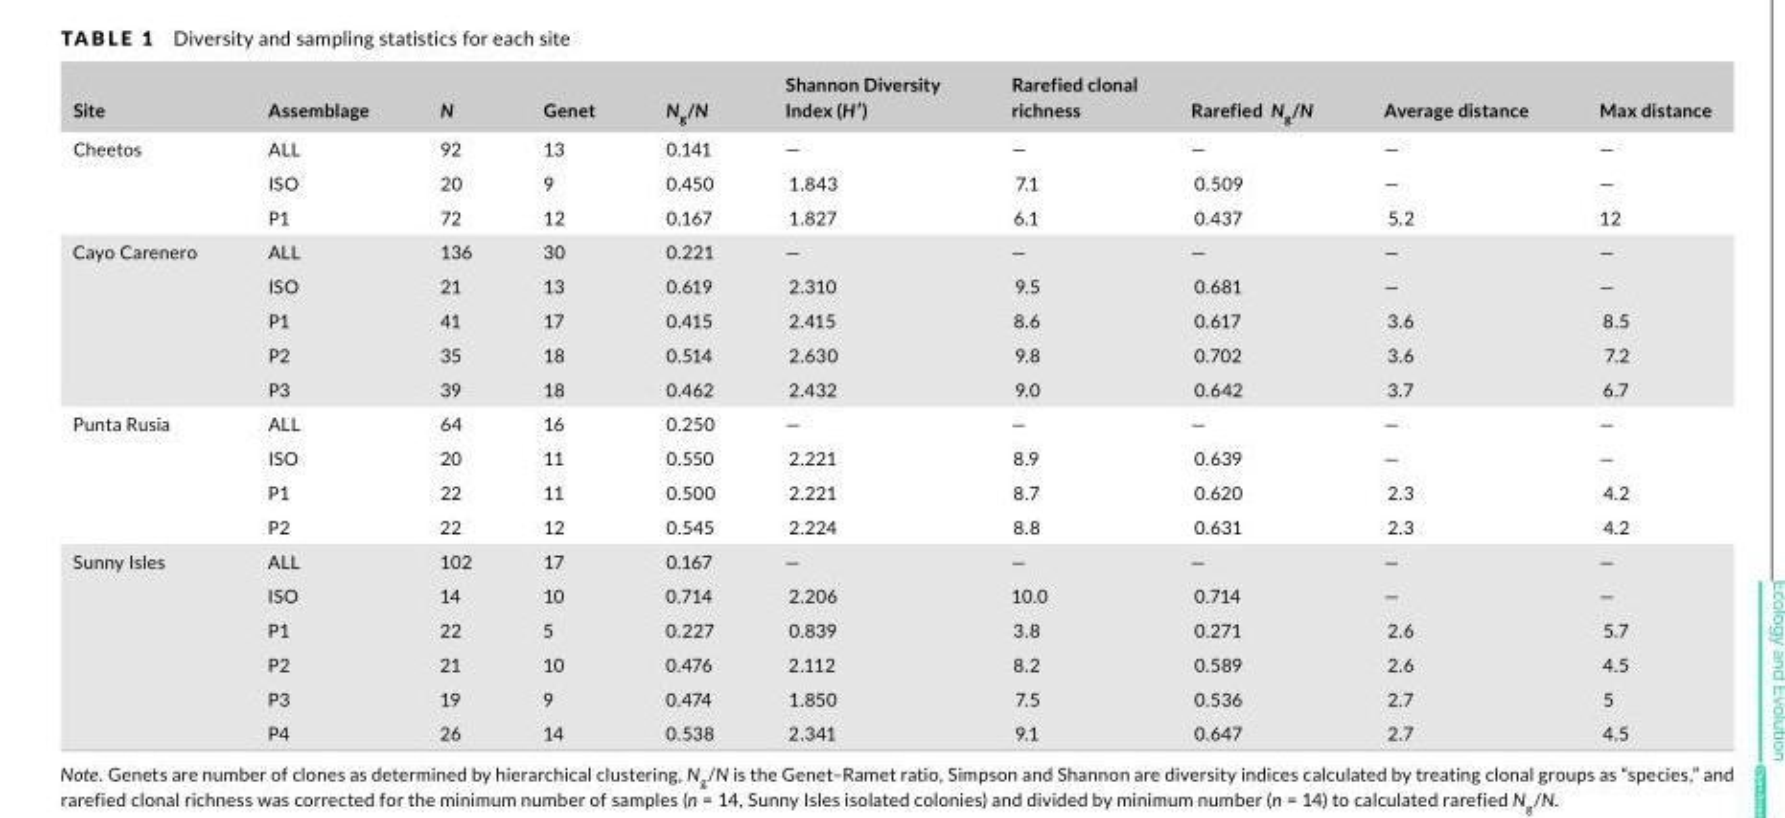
<table><thead><tr><td>Site</td><td>Assemblage</td><td>N</td><td>Genet</td><td>N<sub>g</sub>/N</td><td>Shannon Diversity Index (H′)</td><td>Rarefied clonal richness</td><td>Rarefied N<sub>g</sub>/N</td><td>Average distance</td><td>Max distance</td></tr></thead><tbody><tr><td rowspan="3">Cheetos</td><td>ALL</td><td>92</td><td>13</td><td>0.141</td><td>—</td><td>—</td><td>—</td><td>—</td><td>—</td></tr><tr><td>ISO</td><td>20</td><td>9</td><td>0.450</td><td>1.843</td><td>7.1</td><td>0.509</td><td>—</td><td>—</td></tr><tr><td>P1</td><td>72</td><td>12</td><td>0.167</td><td>1.827</td><td>6.1</td><td>0.437</td><td>5.2</td><td>12</td></tr><tr><td rowspan="5">Cayo Carenero</td><td>ALL</td><td>136</td><td>30</td><td>0.221</td><td>—</td><td>—</td><td>—</td><td>—</td><td>—</td></tr><tr><td>ISO</td><td>21</td><td>13</td><td>0.619</td><td>2.310</td><td>9.5</td><td>0.681</td><td>—</td><td>—</td></tr><tr><td>P1</td><td>41</td><td>17</td><td>0.415</td><td>2.415</td><td>8.6</td><td>0.617</td><td>3.6</td><td>8.5</td></tr><tr><td>P2</td><td>35</td><td>18</td><td>0.514</td><td>2.630</td><td>9.8</td><td>0.702</td><td>3.6</td><td>7.2</td></tr><tr><td>P3</td><td>39</td><td>18</td><td>0.462</td><td>2.432</td><td>9.0</td><td>0.642</td><td>3.7</td><td>6.7</td></tr><tr><td rowspan="4">Punta Rusia</td><td>ALL</td><td>64</td><td>16</td><td>0.250</td><td>—</td><td>—</td><td>—</td><td>—</td><td>—</td></tr><tr><td>ISO</td><td>20</td><td>11</td><td>0.550</td><td>2.221</td><td>8.9</td><td>0.639</td><td>—</td><td>—</td></tr><tr><td>P1</td><td>22</td><td>11</td><td>0.500</td><td>2.221</td><td>8.7</td><td>0.620</td><td>2.3</td><td>4.2</td></tr><tr><td>P2</td><td>22</td><td>12</td><td>0.545</td><td>2.224</td><td>8.8</td><td>0.631</td><td>2.3</td><td>4.2</td></tr><tr><td rowspan="6">Sunny Isles</td><td>ALL</td><td>102</td><td>17</td><td>0.167</td><td>—</td><td>—</td><td>—</td><td>—</td><td>—</td></tr><tr><td>ISO</td><td>14</td><td>10</td><td>0.714</td><td>2.206</td><td>10.0</td><td>0.714</td><td>—</td><td>—</td></tr><tr><td>P1</td><td>22</td><td>5</td><td>0.227</td><td>0.839</td><td>3.8</td><td>0.271</td><td>2.6</td><td>5.7</td></tr><tr><td>P2</td><td>21</td><td>10</td><td>0.476</td><td>2.112</td><td>8.2</td><td>0.589</td><td>2.6</td><td>4.5</td></tr><tr><td>P3</td><td>19</td><td>9</td><td>0.474</td><td>1.850</td><td>7.5</td><td>0.536</td><td>2.7</td><td>5</td></tr><tr><td>P4</td><td>26</td><td>14</td><td>0.538</td><td>2.341</td><td>9.1</td><td>0.647</td><td>2.7</td><td>4.5</td></tr></tbody></table>